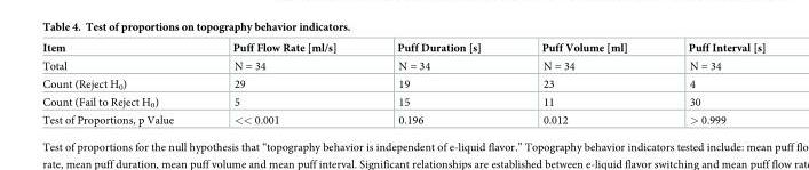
<table><thead><tr><td>Item</td><td>Puff Flow Rate [ml/s]</td><td>Puff Duration [s]</td><td>Puff Volume [ml]</td><td>Puff Interval [s]</td></tr></thead><tbody><tr><td>Total</td><td>N = 34</td><td>N = 34</td><td>N = 34</td><td>N = 34</td></tr><tr><td>Count (Reject H<sub>0</sub>)</td><td>29</td><td>19</td><td>23</td><td>4</td></tr><tr><td>Count (Fail to Reject H<sub>0</sub>)</td><td>5</td><td>15</td><td>11</td><td>30</td></tr><tr><td>Test of Proportions, p Value</td><td>&lt;&lt; 0.001</td><td>0.196</td><td>0.012</td><td>&gt; 0.999</td></tr></tbody></table>